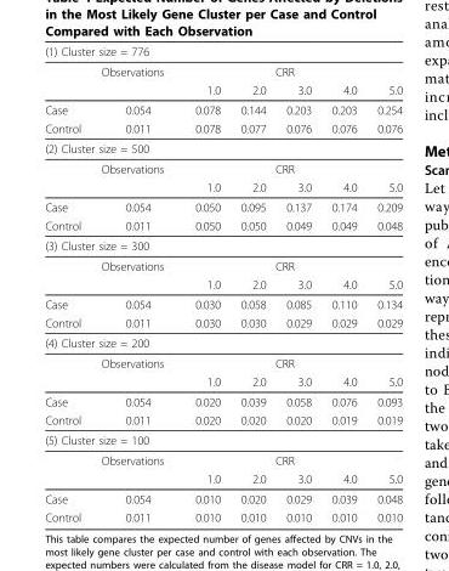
<table><tbody><tr><td colspan="7">(1) Cluster size = 776</td></tr><tr><td></td><td>Observations</td><td></td><td></td><td>CRR</td><td></td><td></td></tr><tr><td></td><td></td><td>1.0</td><td>2.0</td><td>3.0</td><td>4.0</td><td>5.0</td></tr><tr><td>Case</td><td>0.054</td><td>0.078</td><td>0.144</td><td>0.203</td><td>0.203</td><td>0.254</td></tr><tr><td>Control</td><td>0.011</td><td>0.078</td><td>0.077</td><td>0.076</td><td>0.076</td><td>0.076</td></tr><tr><td colspan="7">(2) Cluster size = 500</td></tr><tr><td></td><td>Observations</td><td></td><td></td><td>CRR</td><td></td><td></td></tr><tr><td></td><td></td><td>1.0</td><td>2.0</td><td>3.0</td><td>4.0</td><td>5.0</td></tr><tr><td>Case</td><td>0.054</td><td>0.050</td><td>0.095</td><td>0.137</td><td>0.174</td><td>0.209</td></tr><tr><td>Control</td><td>0.011</td><td>0.050</td><td>0.050</td><td>0.049</td><td>0.049</td><td>0.048</td></tr><tr><td colspan="7">(3) Cluster size = 300</td></tr><tr><td></td><td>Observations</td><td></td><td></td><td>CRR</td><td></td><td></td></tr><tr><td></td><td></td><td>1.0</td><td>2.0</td><td>3.0</td><td>4.0</td><td>5.0</td></tr><tr><td>Case</td><td>0.054</td><td>0.030</td><td>0.058</td><td>0.085</td><td>0.110</td><td>0.134</td></tr><tr><td>Control</td><td>0.011</td><td>0.030</td><td>0.030</td><td>0.029</td><td>0.029</td><td>0.029</td></tr><tr><td colspan="7">(4) Cluster size = 200</td></tr><tr><td></td><td>Observations</td><td></td><td></td><td>CRR</td><td></td><td></td></tr><tr><td></td><td></td><td>1.0</td><td>2.0</td><td>3.0</td><td>4.0</td><td>5.0</td></tr><tr><td>Case</td><td>0.054</td><td>0.020</td><td>0.039</td><td>0.058</td><td>0.076</td><td>0.093</td></tr><tr><td>Control</td><td>0.011</td><td>0.020</td><td>0.020</td><td>0.020</td><td>0.019</td><td>0.019</td></tr><tr><td colspan="7">(5) Cluster size = 100</td></tr><tr><td></td><td>Observations</td><td></td><td></td><td>CRR</td><td></td><td></td></tr><tr><td></td><td></td><td>1.0</td><td>2.0</td><td>3.0</td><td>4.0</td><td>5.0</td></tr><tr><td>Case</td><td>0.054</td><td>0.010</td><td>0.020</td><td>0.029</td><td>0.039</td><td>0.048</td></tr><tr><td>Control</td><td>0.011</td><td>0.010</td><td>0.010</td><td>0.010</td><td>0.010</td><td>0.010</td></tr></tbody></table>